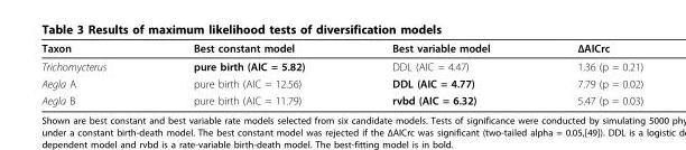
<table><thead><tr><td>Taxon</td><td>Best constant model</td><td>Best variable model</td><td>ΔAICrc</td></tr></thead><tbody><tr><td>Trichomycterus</td><td>pure birth (AIC = 5.82)</td><td>DDL (AIC = 4.47)</td><td>1.36 (p = 0.21)</td></tr><tr><td>Aegla A</td><td>pure birth (AIC = 12.56)</td><td>DDL (AIC = 4.77)</td><td>7.79 (p = 0.02)</td></tr><tr><td>Aegla B</td><td>pure birth (AIC = 11.79)</td><td>rvbd (AIC = 6.32)</td><td>5.47 (p = 0.03)</td></tr></tbody></table>